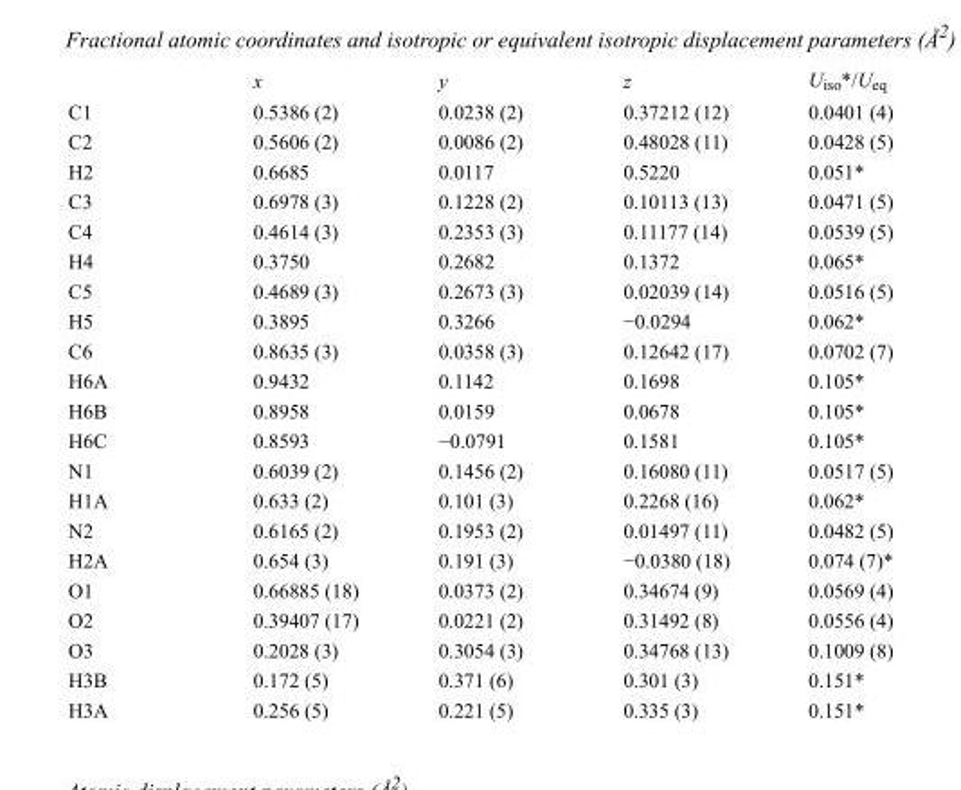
<table><thead><tr><td></td><td>x</td><td>y</td><td>z</td><td>U<sub>iso</sub>*/U<sub>eq</sub></td></tr></thead><tbody><tr><td>C1</td><td>0.5386 (2)</td><td>0.0238 (2)</td><td>0.37212 (12)</td><td>0.0401 (4)</td></tr><tr><td>C2</td><td>0.5606 (2)</td><td>0.0086 (2)</td><td>0.48028 (11)</td><td>0.0428 (5)</td></tr><tr><td>H2</td><td>0.6685</td><td>0.0117</td><td>0.5220</td><td>0.051*</td></tr><tr><td>C3</td><td>0.6978 (3)</td><td>0.1228 (2)</td><td>0.10113 (13)</td><td>0.0471 (5)</td></tr><tr><td>C4</td><td>0.4614 (3)</td><td>0.2353 (3)</td><td>0.11177 (14)</td><td>0.0539 (5)</td></tr><tr><td>H4</td><td>0.3750</td><td>0.2682</td><td>0.1372</td><td>0.065*</td></tr><tr><td>C5</td><td>0.4689 (3)</td><td>0.2673 (3)</td><td>0.02039 (14)</td><td>0.0516 (5)</td></tr><tr><td>H5</td><td>0.3895</td><td>0.3266</td><td>−0.0294</td><td>0.062*</td></tr><tr><td>C6</td><td>0.8635 (3)</td><td>0.0358 (3)</td><td>0.12642 (17)</td><td>0.0702 (7)</td></tr><tr><td>H6A</td><td>0.9432</td><td>0.1142</td><td>0.1698</td><td>0.105*</td></tr><tr><td>H6B</td><td>0.8958</td><td>0.0159</td><td>0.0678</td><td>0.105*</td></tr><tr><td>H6C</td><td>0.8593</td><td>−0.0791</td><td>0.1581</td><td>0.105*</td></tr><tr><td>N1</td><td>0.6039 (2)</td><td>0.1456 (2)</td><td>0.16080 (11)</td><td>0.0517 (5)</td></tr><tr><td>H1A</td><td>0.633 (2)</td><td>0.101 (3)</td><td>0.2268 (16)</td><td>0.062*</td></tr><tr><td>N2</td><td>0.6165 (2)</td><td>0.1953 (2)</td><td>0.01497 (11)</td><td>0.0482 (5)</td></tr><tr><td>H2A</td><td>0.654 (3)</td><td>0.191 (3)</td><td>−0.0380 (18)</td><td>0.074 (7)*</td></tr><tr><td>O1</td><td>0.66885 (18)</td><td>0.0373 (2)</td><td>0.34674 (9)</td><td>0.0569 (4)</td></tr><tr><td>O2</td><td>0.39407 (17)</td><td>0.0221 (2)</td><td>0.31492 (8)</td><td>0.0556 (4)</td></tr><tr><td>O3</td><td>0.2028 (3)</td><td>0.3054 (3)</td><td>0.34768 (13)</td><td>0.1009 (8)</td></tr><tr><td>H3B</td><td>0.172 (5)</td><td>0.371 (6)</td><td>0.301 (3)</td><td>0.151*</td></tr><tr><td>H3A</td><td>0.256 (5)</td><td>0.221 (5)</td><td>0.335 (3)</td><td>0.151*</td></tr></tbody></table>